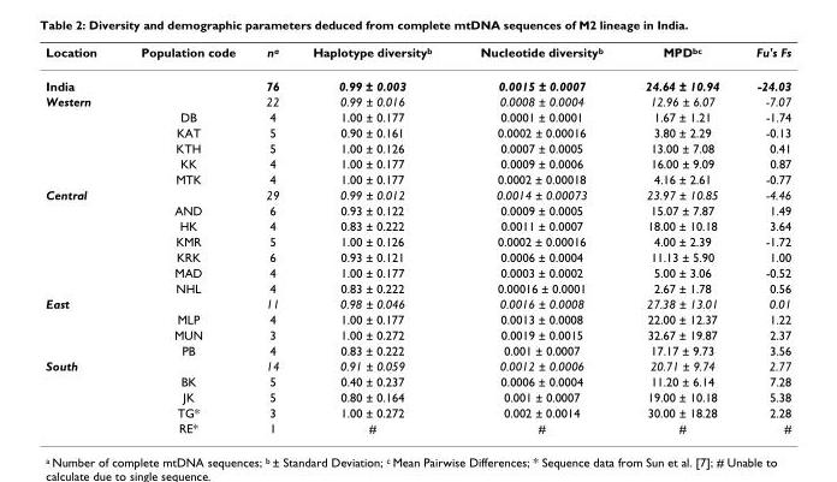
<table><thead><tr><td>Location</td><td>Population code</td><td>n<sup>a</sup></td><td>Haplotype diversity<sup>b</sup></td><td>Nucleotide diversity<sup>b</sup></td><td>MPD<sup>bc</sup></td><td>Fu&#x27;s Fs</td></tr></thead><tbody><tr><td>India</td><td></td><td>76</td><td>0.99 ± 0.003</td><td>0.0015 ± 0.0007</td><td>24.64 ± 10.94</td><td>-24.03</td></tr><tr><td rowspan="6">Western</td><td></td><td>22</td><td>0.99 ± 0.016</td><td>0.0008 ± 0.0004</td><td>12.96 ± 6.07</td><td>-7.07</td></tr><tr><td>DB</td><td>4</td><td>1.00 ± 0.177</td><td>0.0001 ± 0.0001</td><td>1.67 ± 1.21</td><td>-1.74</td></tr><tr><td>KAT</td><td>5</td><td>0.90 ± 0.161</td><td>0.0002 ± 0.00016</td><td>3.80 ± 2.29</td><td>-0.13</td></tr><tr><td>KTH</td><td>5</td><td>1.00 ± 0.126</td><td>0.0007 ± 0.0005</td><td>13.00 ± 7.08</td><td>0.41</td></tr><tr><td>KK</td><td>4</td><td>1.00 ± 0.177</td><td>0.0009 ± 0.0006</td><td>16.00 ± 9.09</td><td>0.87</td></tr><tr><td>MTK</td><td>4</td><td>1.00 ± 0.177</td><td>0.0002 ± 0.00018</td><td>4.16 ± 2.61</td><td>-0.77</td></tr><tr><td rowspan="7">Central</td><td></td><td>29</td><td>0.99 ± 0.012</td><td>0.0014 ± 0.00073</td><td>23.97 ± 10.85</td><td>-4.46</td></tr><tr><td>AND</td><td>6</td><td>0.93 ± 0.122</td><td>0.0009 ± 0.0005</td><td>15.07 ± 7.87</td><td>1.49</td></tr><tr><td>HK</td><td>4</td><td>0.83 ± 0.222</td><td>0.0011 ± 0.0007</td><td>18.00 ± 10.18</td><td>3.64</td></tr><tr><td>KMR</td><td>5</td><td>1.00 ± 0.126</td><td>0.0002 ± 0.00016</td><td>4.00 ± 2.39</td><td>-1.72</td></tr><tr><td>KRK</td><td>6</td><td>0.93 ± 0.121</td><td>0.0006 ± 0.0004</td><td>11.13 ± 5.90</td><td>1.00</td></tr><tr><td>MAD</td><td>4</td><td>1.00 ± 0.177</td><td>0.0003 ± 0.0002</td><td>5.00 ± 3.06</td><td>-0.52</td></tr><tr><td>NHL</td><td>4</td><td>0.83 ± 0.222</td><td>0.00016 ± 0.0001</td><td>2.67 ± 1.78</td><td>0.56</td></tr><tr><td rowspan="4">East</td><td></td><td>11</td><td>0.98 ± 0.046</td><td>0.0016 ± 0.0008</td><td>27.38 ± 13.01</td><td>0.01</td></tr><tr><td>MLP</td><td>4</td><td>1.00 ± 0.177</td><td>0.0013 ± 0.0008</td><td>22.00 ± 12.37</td><td>1.22</td></tr><tr><td>MUN</td><td>3</td><td>1.00 ± 0.272</td><td>0.0019 ± 0.0015</td><td>32.67 ± 19.87</td><td>2.37</td></tr><tr><td>PB</td><td>4</td><td>0.83 ± 0.222</td><td>0.001 ± 0.0007</td><td>17.17 ± 9.73</td><td>3.56</td></tr><tr><td rowspan="5">South</td><td></td><td>14</td><td>0.91 ± 0.059</td><td>0.0012 ± 0.0006</td><td>20.71 ± 9.74</td><td>2.77</td></tr><tr><td>BK</td><td>5</td><td>0.40 ± 0.237</td><td>0.0006 ± 0.0004</td><td>11.20 ± 6.14</td><td>7.28</td></tr><tr><td>JK</td><td>5</td><td>0.80 ± 0.164</td><td>0.001 ± 0.0007</td><td>19.00 ± 10.18</td><td>5.38</td></tr><tr><td>TG*</td><td>3</td><td>1.00 ± 0.272</td><td>0.002 ± 0.0014</td><td>30.00 ± 18.28</td><td>2.28</td></tr><tr><td>RE*</td><td>1</td><td>#</td><td>#</td><td>#</td><td>#</td></tr></tbody></table>